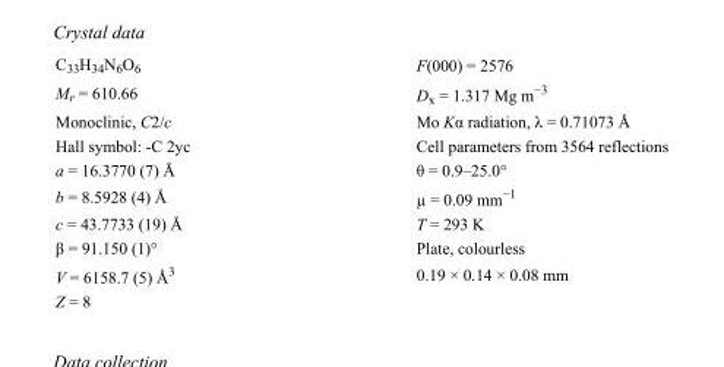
<table><tbody><tr><td>C<sub>33</sub>H<sub>34</sub>N<sub>6</sub>O<sub>6</sub></td><td>F(000) = 2576</td></tr><tr><td>M<sub>r</sub> = 610.66</td><td>D<sub>x</sub> = 1.317 Mg m<sup>−3</sup></td></tr><tr><td>Monoclinic, C2/c</td><td>Mo Kα radiation, λ = 0.71073 Å</td></tr><tr><td>Hall symbol: -C 2yc</td><td>Cell parameters from 3564 reflections</td></tr><tr><td>a = 16.3770 (7) Å</td><td>θ = 0.9–25.0°</td></tr><tr><td>b = 8.5928 (4) Å</td><td>µ = 0.09 mm<sup>−1</sup></td></tr><tr><td>c = 43.7733 (19) Å</td><td>T = 293 K</td></tr><tr><td>β = 91.150 (1)°</td><td>Plate, colourless</td></tr><tr><td>V = 6158.7 (5) Å<sup>3</sup></td><td>0.19 × 0.14 × 0.08 mm</td></tr><tr><td>Z = 8</td><td></td></tr></tbody></table>